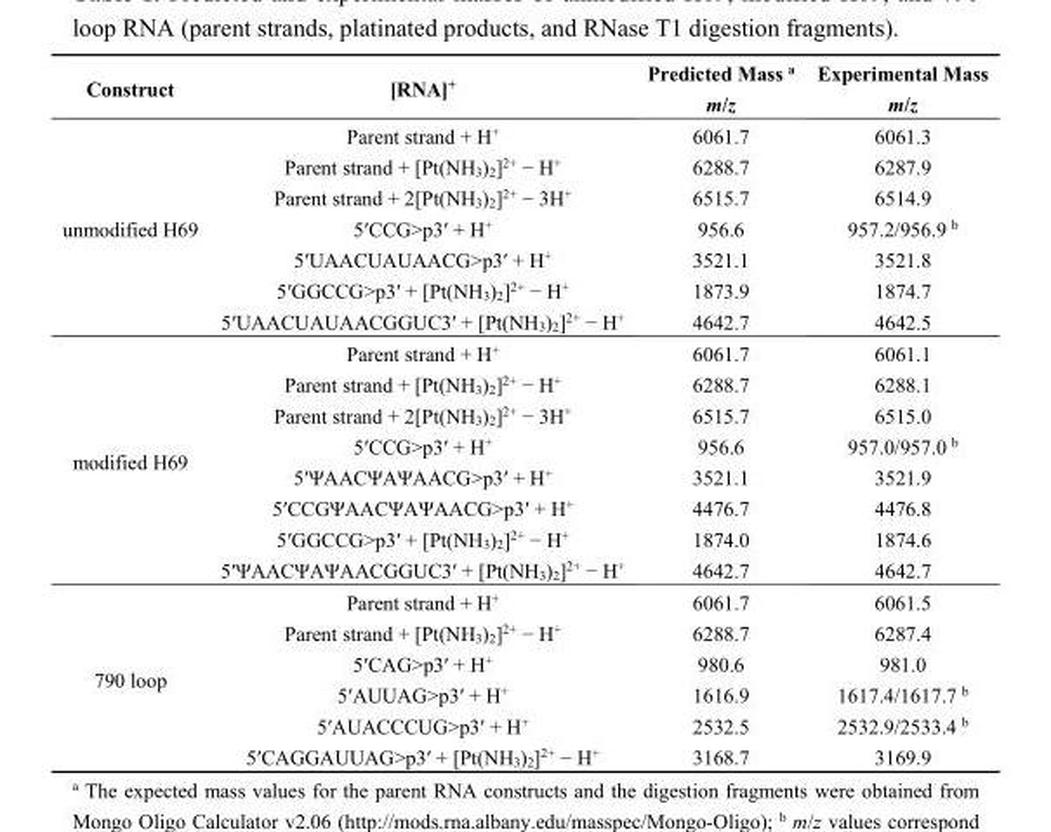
<table><thead><tr><td>Construct</td><td>[RNA]<sup>+</sup></td><td>Predicted Mass <sup>a</sup> m/z</td><td>Experimental Mass m/z</td></tr></thead><tbody><tr><td rowspan="7">unmodified H69</td><td>Parent strand + H<sup>+</sup></td><td>6061.7</td><td>6061.3</td></tr><tr><td>Parent strand + [Pt(NH<sub>3</sub>)<sub>2</sub>]<sup>2+</sup> − H<sup>+</sup></td><td>6288.7</td><td>6287.9</td></tr><tr><td>Parent strand + 2[Pt(NH<sub>3</sub>)<sub>2</sub>]<sup>2+</sup> − 3H<sup>+</sup></td><td>6515.7</td><td>6514.9</td></tr><tr><td>5′CCG&gt;p3′ + H<sup>+</sup></td><td>956.6</td><td>957.2/956.9 <sup>b</sup></td></tr><tr><td>5′UAACUAUAACG&gt;p3′ + H<sup>+</sup></td><td>3521.1</td><td>3521.8</td></tr><tr><td>5′GGCCG&gt;p3′ + [Pt(NH<sub>3</sub>)<sub>2</sub>]<sup>2+</sup> − H<sup>+</sup></td><td>1873.9</td><td>1874.7</td></tr><tr><td>5′UAACUAUAACGGUC3′ + [Pt(NH<sub>3</sub>)<sub>2</sub>]<sup>2+</sup> − H<sup>+</sup></td><td>4642.7</td><td>4642.5</td></tr><tr><td rowspan="8">modified H69</td><td>Parent strand + H<sup>+</sup></td><td>6061.7</td><td>6061.1</td></tr><tr><td>Parent strand + [Pt(NH<sub>3</sub>)<sub>2</sub>]<sup>2+</sup> − H<sup>+</sup></td><td>6288.7</td><td>6288.1</td></tr><tr><td>Parent strand + 2[Pt(NH<sub>3</sub>)<sub>2</sub>]<sup>2+</sup> − 3H<sup>+</sup></td><td>6515.7</td><td>6515.0</td></tr><tr><td>5′CCG&gt;p3′ + H<sup>+</sup></td><td>956.6</td><td>957.0/957.0 <sup>b</sup></td></tr><tr><td>5′ΨAACΨAΨAACG&gt;p3′ + H<sup>+</sup></td><td>3521.1</td><td>3521.9</td></tr><tr><td>5′CCGΨAACΨAΨAACG&gt;p3′ + H<sup>+</sup></td><td>4476.7</td><td>4476.8</td></tr><tr><td>5′GGCCG&gt;p3′ + [Pt(NH<sub>3</sub>)<sub>2</sub>]<sup>2+</sup> − H<sup>+</sup></td><td>1874.0</td><td>1874.6</td></tr><tr><td>5′ΨAACΨAΨAACGGUC3′ + [Pt(NH<sub>3</sub>)<sub>2</sub>]<sup>2+</sup> − H<sup>+</sup></td><td>4642.7</td><td>4642.7</td></tr><tr><td rowspan="5">790 loop</td><td>Parent strand + H<sup>+</sup> Parent strand + [Pt(NH<sub>3</sub>)<sub>2</sub>]<sup>2+</sup> − H<sup>+</sup></td><td>6061.7 6288.7</td><td>6061.5 6287.4</td></tr><tr><td>5′CAG&gt;p3′ + H<sup>+</sup></td><td>980.6</td><td>981.0</td></tr><tr><td>5′AUUAG&gt;p3′ + H<sup>+</sup></td><td>1616.9</td><td>1617.4/1617.7 <sup>b</sup></td></tr><tr><td>5′AUACCCUG&gt;p3′ + H<sup>+</sup></td><td>2532.5</td><td>2532.9/2533.4 <sup>b</sup></td></tr><tr><td>5′CAGGAUUAG&gt;p3′ + [Pt(NH<sub>3</sub>)<sub>2</sub>]<sup>2+</sup> − H<sup>+</sup></td><td>3168.7</td><td>3169.9</td></tr></tbody></table>